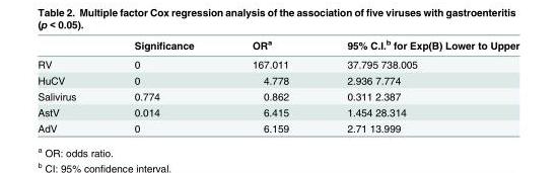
<table><thead><tr><td></td><td>Significance</td><td>OR<sup>a</sup></td><td>95% C.I.<sup>b</sup> for Exp(B) Lower to Upper</td></tr></thead><tbody><tr><td>RV</td><td>0</td><td>167.011</td><td>37.795 738.005</td></tr><tr><td>HuCV</td><td>0</td><td>4.778</td><td>2.936 7.774</td></tr><tr><td>Salivirus</td><td>0.774</td><td>0.862</td><td>0.311 2.387</td></tr><tr><td>AstV</td><td>0.014</td><td>6.415</td><td>1.454 28.314</td></tr><tr><td>AdV</td><td>0</td><td>6.159</td><td>2.71 13.999</td></tr></tbody></table>